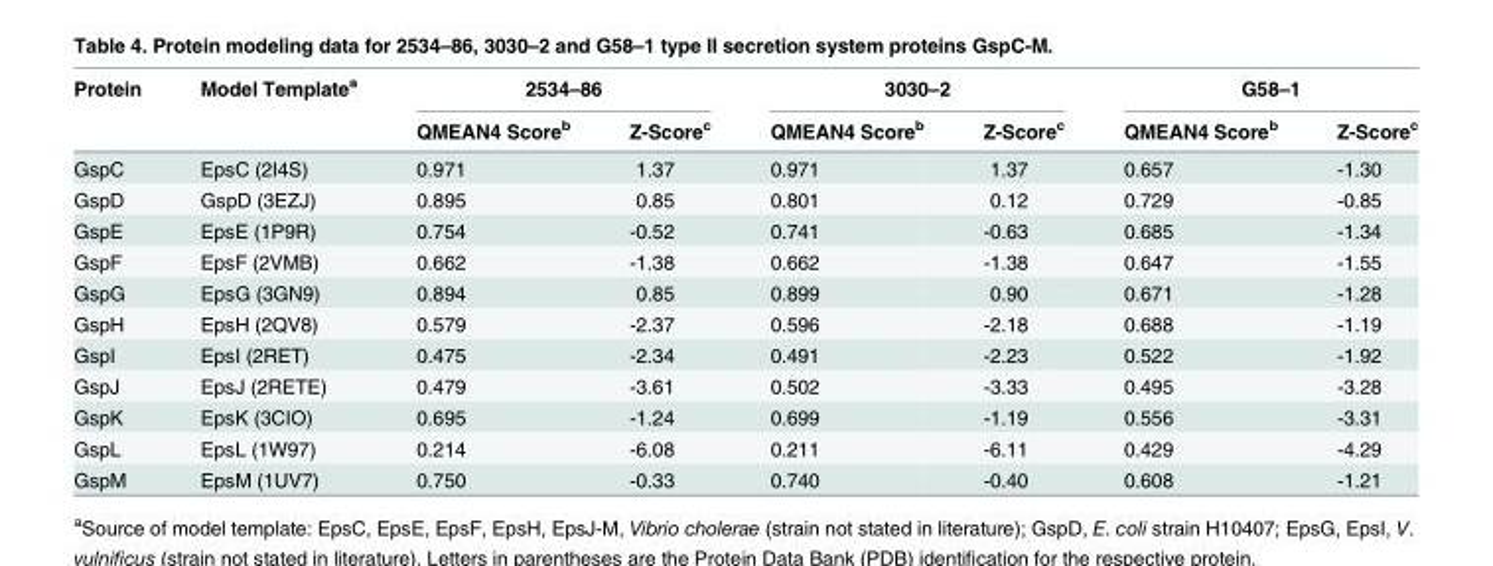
<table><thead><tr><td rowspan="2">Protein</td><td rowspan="2">Model Template<sup>a</sup></td><td colspan="2">2534–86</td><td colspan="2">3030–2</td><td colspan="2">G58–1</td></tr><tr><td>QMEAN4 Score<sup>b</sup></td><td>Z-Score<sup>c</sup></td><td>QMEAN4 Score<sup>b</sup></td><td>Z-Score<sup>c</sup></td><td>QMEAN4 Score<sup>b</sup></td><td>Z-Score<sup>c</sup></td></tr></thead><tbody><tr><td>GspC</td><td>EpsC (2I4S)</td><td>0.971</td><td>1.37</td><td>0.971</td><td>1.37</td><td>0.657</td><td>-1.30</td></tr><tr><td>GspD</td><td>GspD (3EZJ)</td><td>0.895</td><td>0.85</td><td>0.801</td><td>0.12</td><td>0.729</td><td>-0.85</td></tr><tr><td>GspE</td><td>EpsE (1P9R)</td><td>0.754</td><td>-0.52</td><td>0.741</td><td>-0.63</td><td>0.685</td><td>-1.34</td></tr><tr><td>GspF</td><td>EpsF (2VMB)</td><td>0.662</td><td>-1.38</td><td>0.662</td><td>-1.38</td><td>0.647</td><td>-1.55</td></tr><tr><td>GspG</td><td>EpsG (3GN9)</td><td>0.894</td><td>0.85</td><td>0.899</td><td>0.90</td><td>0.671</td><td>-1.28</td></tr><tr><td>GspH</td><td>EpsH (2QV8)</td><td>0.579</td><td>-2.37</td><td>0.596</td><td>-2.18</td><td>0.688</td><td>-1.19</td></tr><tr><td>GspI</td><td>EpsI (2RET)</td><td>0.475</td><td>-2.34</td><td>0.491</td><td>-2.23</td><td>0.522</td><td>-1.92</td></tr><tr><td>GspJ</td><td>EpsJ (2RETE)</td><td>0.479</td><td>-3.61</td><td>0.502</td><td>-3.33</td><td>0.495</td><td>-3.28</td></tr><tr><td>GspK</td><td>EpsK (3CIO)</td><td>0.695</td><td>-1.24</td><td>0.699</td><td>-1.19</td><td>0.556</td><td>-3.31</td></tr><tr><td>GspL</td><td>EpsL (1W97)</td><td>0.214</td><td>-6.08</td><td>0.211</td><td>-6.11</td><td>0.429</td><td>-4.29</td></tr><tr><td>GspM</td><td>EpsM (1UV7)</td><td>0.750</td><td>-0.33</td><td>0.740</td><td>-0.40</td><td>0.608</td><td>-1.21</td></tr></tbody></table>